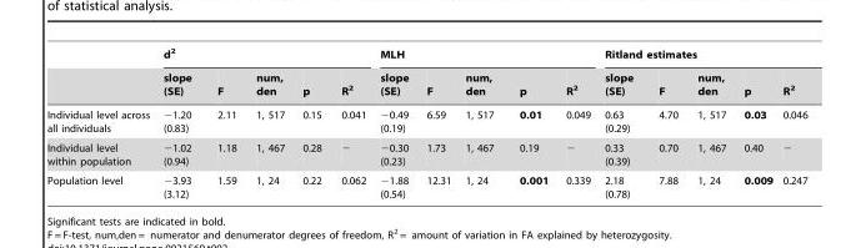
<table><thead><tr><td rowspan="2"></td><td colspan="5">d<sup>2</sup></td><td colspan="5">MLH</td><td colspan="5">Ritland estimates</td></tr><tr><td>slope (SE)</td><td>F</td><td>num, den</td><td>p</td><td>R<sup>2</sup></td><td>slope (SE)</td><td>F</td><td>num, den</td><td>p</td><td>R<sup>2</sup></td><td>slope (SE)</td><td>F</td><td>num, den</td><td>p</td><td>R<sup>2</sup></td></tr></thead><tbody><tr><td>Individual level across all individuals</td><td>−1.20 (0.83)</td><td>2.11</td><td>1, 517</td><td>0.15</td><td>0.041</td><td>−0.49 (0.19)</td><td>6.59</td><td>1, 517</td><td>0.01</td><td>0.049</td><td>0.63 (0.29)</td><td>4.70</td><td>1, 517</td><td>0.03</td><td>0.046</td></tr><tr><td>Individual level within population</td><td>−1.02 (0.94)</td><td>1.18</td><td>1, 467</td><td>0.28</td><td>−</td><td>−0.30 (0.23)</td><td>1.73</td><td>1, 467</td><td>0.19</td><td>−</td><td>0.33 (0.39)</td><td>0.70</td><td>1, 467</td><td>0.40</td><td>−</td></tr><tr><td>Population level</td><td>−3.93 (3.12)</td><td>1.59</td><td>1, 24</td><td>0.22</td><td>0.062</td><td>−1.88 (0.54)</td><td>12.31</td><td>1, 24</td><td>0.001</td><td>0.339</td><td>2.18 (0.78)</td><td>7.88</td><td>1, 24</td><td>0.009</td><td>0.247</td></tr></tbody></table>